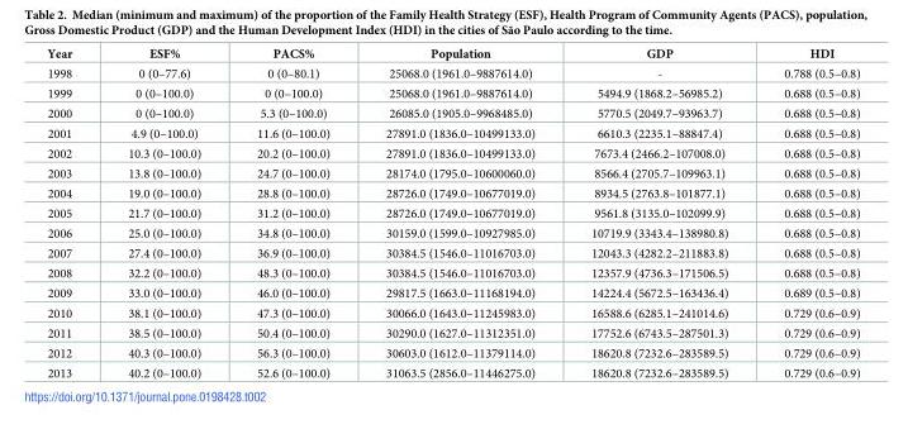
<table><thead><tr><td>Year</td><td>ESF%</td><td>PACS%</td><td>Population</td><td>GDP</td><td>HDI</td></tr></thead><tbody><tr><td>1998</td><td>0 (0–77.6)</td><td>0 (0–80.1)</td><td>25068.0 (1961.0–9887614.0)</td><td>-</td><td>0.788 (0.5–0.8)</td></tr><tr><td>1999</td><td>0 (0–100.0)</td><td>0 (0–100.0)</td><td>25068.0 (1961.0–9887614.0)</td><td>5494.9 (1868.2–56985.2)</td><td>0.688 (0.5–0.8)</td></tr><tr><td>2000</td><td>0 (0–100.0)</td><td>5.3 (0–100.0)</td><td>26085.0 (1905.0–9968485.0)</td><td>5770.5 (2049.7–93963.7)</td><td>0.688 (0.5–0.8)</td></tr><tr><td>2001</td><td>4.9 (0–100.0)</td><td>11.6 (0–100.0)</td><td>27891.0 (1836.0–10499133.0)</td><td>6610.3 (2235.1–88847.4)</td><td>0.688 (0.5–0.8)</td></tr><tr><td>2002</td><td>10.3 (0–100.0)</td><td>20.2 (0–100.0)</td><td>27891.0 (1836.0–10499133.0)</td><td>7673.4 (2466.2–107008.0)</td><td>0.688 (0.5–0.8)</td></tr><tr><td>2003</td><td>13.8 (0–100.0)</td><td>24.7 (0–100.0)</td><td>28174.0 (1795.0–10600060.0)</td><td>8566.4 (2705.7–109963.1)</td><td>0.688 (0.5–0.8)</td></tr><tr><td>2004</td><td>19.0 (0–100.0)</td><td>28.8 (0–100.0)</td><td>28726.0 (1749.0–10677019.0)</td><td>8934.5 (2763.8–101877.1)</td><td>0.688 (0.5–0.8)</td></tr><tr><td>2005</td><td>21.7 (0–100.0)</td><td>31.2 (0–100.0)</td><td>28726.0 (1749.0–10677019.0)</td><td>9561.8 (3135.0–102099.9)</td><td>0.688 (0.5–0.8)</td></tr><tr><td>2006</td><td>25.0 (0–100.0)</td><td>34.8 (0–100.0)</td><td>30159.0 (1599.0–10927985.0)</td><td>10719.9 (3343.4–138980.8)</td><td>0.688 (0.5–0.8)</td></tr><tr><td>2007</td><td>27.4 (0–100.0)</td><td>36.9 (0–100.0)</td><td>30384.5 (1546.0–11016703.0)</td><td>12043.3 (4282.2–211883.8)</td><td>0.688 (0.5–0.8)</td></tr><tr><td>2008</td><td>32.2 (0–100.0)</td><td>48.3 (0–100.0)</td><td>30384.5 (1546.0–11016703.0)</td><td>12357.9 (4736.3–171506.5)</td><td>0.688 (0.5–0.8)</td></tr><tr><td>2009</td><td>33.0 (0–100.0)</td><td>46.0 (0–100.0)</td><td>29817.5 (1663.0–11168194.0)</td><td>14224.4 (5672.5–163436.4)</td><td>0.689 (0.5–0.8)</td></tr><tr><td>2010</td><td>38.1 (0–100.0)</td><td>47.3 (0–100.0)</td><td>30066.0 (1643.0–11245983.0)</td><td>16588.6 (6285.1–241014.6)</td><td>0.729 (0.6–0.9)</td></tr><tr><td>2011</td><td>38.5 (0–100.0)</td><td>50.4 (0–100.0)</td><td>30290.0 (1627.0–11312351.0)</td><td>17752.6 (6743.5–287501.3)</td><td>0.729 (0.6–0.9)</td></tr><tr><td>2012</td><td>40.3 (0–100.0)</td><td>56.3 (0–100.0)</td><td>30603.0 (1612.0–11379114.0)</td><td>18620.8 (7232.6–283589.5)</td><td>0.729 (0.6–0.9)</td></tr><tr><td>2013</td><td>40.2 (0–100.0)</td><td>52.6 (0–100.0)</td><td>31063.5 (2856.0–11446275.0)</td><td>18620.8 (7232.6–283589.5)</td><td>0.729 (0.6–0.9)</td></tr></tbody></table>